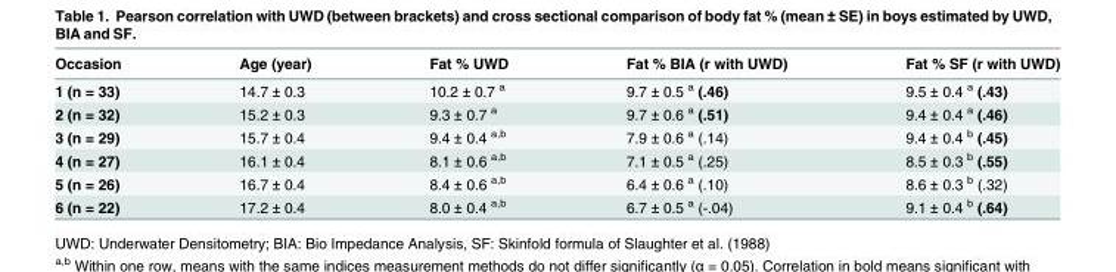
<table><thead><tr><td>Occasion</td><td>Age (year)</td><td>Fat % UWD</td><td>Fat % BIA (r with UWD)</td><td>Fat % SF (r with UWD)</td></tr></thead><tbody><tr><td>1 (n = 33)</td><td>14.7 ± 0.3</td><td>10.2 ± 0.7 <sup>a</sup></td><td>9.7 ± 0.5 <sup>a</sup> (.46)</td><td>9.5 ± 0.4 <sup>a</sup> (.43)</td></tr><tr><td>2 (n = 32)</td><td>15.2 ± 0.3</td><td>9.3 ± 0.7 <sup>a</sup></td><td>9.7 ± 0.6 <sup>a</sup> (.51)</td><td>9.4 ± 0.4 <sup>a</sup> (.46)</td></tr><tr><td>3 (n = 29)</td><td>15.7 ± 0.4</td><td>9.4 ± 0.4 <sup>a,b</sup></td><td>7.9 ± 0.6 <sup>a</sup> (.14)</td><td>9.4 ± 0.4 <sup>b</sup> (.45)</td></tr><tr><td>4 (n = 27)</td><td>16.1 ± 0.4</td><td>8.1 ± 0.6 <sup>a,b</sup></td><td>7.1 ± 0.5 <sup>a</sup> (.25)</td><td>8.5 ± 0.3 <sup>b</sup> (.55)</td></tr><tr><td>5 (n = 26)</td><td>16.7 ± 0.4</td><td>8.4 ± 0.6 <sup>a,b</sup></td><td>6.4 ± 0.6 <sup>a</sup> (.10)</td><td>8.6 ± 0.3 <sup>b</sup> (.32)</td></tr><tr><td>6 (n = 22)</td><td>17.2 ± 0.4</td><td>8.0 ± 0.4 <sup>a,b</sup></td><td>6.7 ± 0.5 <sup>a</sup> (-.04)</td><td>9.1 ± 0.4 <sup>b</sup> (.64)</td></tr></tbody></table>